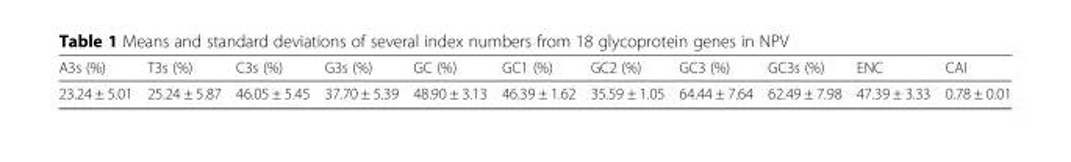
<table><thead><tr><td>A3s (%)</td><td>T3s (%)</td><td>C3s (%)</td><td>G3s (%)</td><td>GC (%)</td><td>GC1 (%)</td><td>GC2 (%)</td><td>GC3 (%)</td><td>GC3s (%)</td><td>ENC</td><td>CAI</td></tr></thead><tbody><tr><td>23.24 ± 5.01</td><td>25.24 ± 5.87</td><td>46.05 ± 5.45</td><td>37.70 ± 5.39</td><td>48.90 ± 3.13</td><td>46.39 ± 1.62</td><td>35.59 ± 1.05</td><td>64.44 ± 7.64</td><td>62.49 ± 7.98</td><td>47.39 ± 3.33</td><td>0.78 ± 0.01</td></tr></tbody></table>